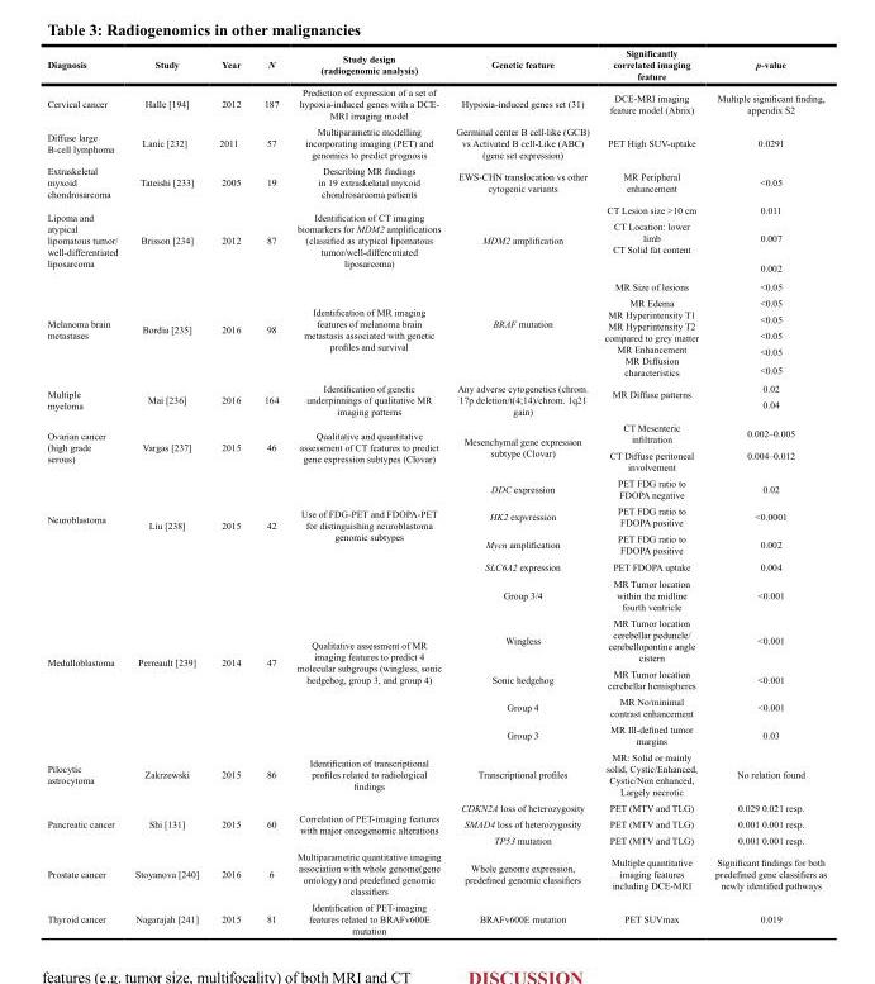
<table><thead><tr><td>Diagnosis</td><td>Study</td><td>Year</td><td>N</td><td>Study design (radiogenomic analysis)</td><td>Genetic feature</td><td>Significantly correlated imaging feature</td><td>p-value</td></tr></thead><tbody><tr><td>Cervical cancer</td><td>Halle [194]</td><td>2012</td><td>187</td><td>Prediction of expression of a set of hypoxia-induced genes with a DCE- MRI imaging model</td><td>Hypoxia-induced genes set (31)</td><td>DCE-MRI imaging feature model (Abrix)</td><td>Multiple significant finding, appendix S2</td></tr><tr><td>Diffuse large B-cell lymphoma</td><td>Lanic [232]</td><td>2011</td><td>57</td><td>Multiparametric modelling incorporating imaging (PET) and genomics to predict prognosis</td><td>Germinal center B cell-like (GCB) vs Activated B cell-Like (ABC) (gene set expression)</td><td>PET High SUV-uptake</td><td>0.0291</td></tr><tr><td>Extraskeletal myxoid chondrosarcoma</td><td>Tateishi [233]</td><td>2005</td><td>19</td><td>Describing MR findings in 19 extraskelatal myxoid chondrosarcoma patients</td><td>EWS-CHN translocation vs other cytogenic variants</td><td>MR Peripheral enhancement</td><td>&lt;0.05</td></tr><tr><td rowspan="3">Lipoma and atypical lipomatous tumor/ well-differentiated liposarcoma</td><td rowspan="3">Brisson [234]</td><td rowspan="3">2012</td><td rowspan="3">87</td><td rowspan="3">Identification of CT imaging biomarkers for MDM2 amplifications (classified as atypical lipomatous tumor/well-differentiated liposarcoma)</td><td rowspan="3">MDM2 amplification</td><td>CT Lesion size &gt;10 cm</td><td>0.011</td></tr><tr><td>CT Location: lower limb CT Solid fat content</td><td>0.007</td></tr><tr><td></td><td>0.002</td></tr><tr><td rowspan="6">Melanoma brain metastases</td><td rowspan="6">Bordia [235]</td><td rowspan="6">2016</td><td rowspan="6">98</td><td rowspan="6">Identification of MR imaging features of melanoma brain metastasis associated with genetic profiles and survival</td><td rowspan="6">BRAF mutation</td><td>MR Size of lesions</td><td>&lt;0.05</td></tr><tr><td rowspan="5">MR Edema MR Hyperintensity T1 MR Hyperintensity T2 compared to grey matter MR Enhancement MR Diffusion characteristics</td><td>&lt;0.05</td></tr><tr><td>&lt;0.05</td></tr><tr><td>&lt;0.05</td></tr><tr><td>&lt;0.05</td></tr><tr><td>&lt;0.05</td></tr><tr><td rowspan="2">Multiple myeloma</td><td rowspan="2">Mai [236]</td><td rowspan="2">2016</td><td rowspan="2">164</td><td rowspan="2">Identification of genetic underpinnings of qualitative MR imaging patterns</td><td rowspan="2">Any adverse cytogenetics (chrom. 17p deletion/t(4;14)/chrom. 1q21 gain)</td><td rowspan="2">MR Diffuse patterns</td><td>0.02</td></tr><tr><td>0.04</td></tr><tr><td rowspan="2">Ovarian cancer (high grade serous)</td><td rowspan="2">Vargas [237]</td><td rowspan="2">2015</td><td rowspan="2">46</td><td rowspan="2">Qualitative and quantitative assessment of CT features to predict gene expression subtypes (Clovar)</td><td rowspan="2">Mesenchymal gene expression subtype (Clovar)</td><td>CT Mesenteric infiltration</td><td>0.002–0.005</td></tr><tr><td>CT Diffuse peritoneal involvement</td><td>0.004–0.012</td></tr><tr><td rowspan="4">Neuroblastoma</td><td rowspan="4">Liu [238]</td><td rowspan="4">2015</td><td rowspan="4">42</td><td rowspan="4">Use of FDG-PET and FDOPA-PET for distinguishing neuroblastoma genomic subtypes</td><td>DDC expression</td><td>PET FDG ratio to FDOPA negative</td><td>0.02</td></tr><tr><td>HK2 expvression</td><td>PET FDG ratio to FDOPA positive</td><td>&lt;0.0001</td></tr><tr><td>Mycn amplification</td><td>PET FDG ratio to FDOPA positive</td><td>0.002</td></tr><tr><td>SLC6A2 expression</td><td>PET FDOPA uptake</td><td>0.004</td></tr><tr><td rowspan="5">Medulloblastoma</td><td rowspan="5">Perreault [239]</td><td rowspan="5">2014</td><td rowspan="5">47</td><td rowspan="5">Qualitative assessment of MR imaging features to predict 4 molecular subgroups (wingless, sonic hedgehog, group 3, and group 4)</td><td>Group 3/4</td><td>MR Tumor location within the midline fourth ventricle</td><td>&lt;0.001</td></tr><tr><td>Wingless</td><td>MR Tumor location cerebellar peduncle/ cerebellopontine angle cistern</td><td>&lt;0.001</td></tr><tr><td>Sonic hedgehog</td><td>MR Tumor location cerebellar hemispheres</td><td>&lt;0.001</td></tr><tr><td>Group 4</td><td>MR No/minimal contrast enhancement</td><td>&lt;0.001</td></tr><tr><td>Group 3</td><td>MR Ill-defined tumor margins</td><td>0.03</td></tr><tr><td>Pilocytic astrocytoma</td><td>Zakrzewski</td><td>2015</td><td>86</td><td>Identification of transcriptional profiles related to radiological findings</td><td>Transcriptional profiles</td><td>MR: Solid or mainly solid, Cystic/Enhanced, Cystic/Non enhanced, Largely necrotic</td><td>No relation found</td></tr><tr><td rowspan="3">Pancreatic cancer</td><td rowspan="3">Shi [131]</td><td rowspan="3">2015</td><td rowspan="3">60</td><td rowspan="3">Correlation of PET-imaging features with major oncogenomic alterations</td><td>CDKN2A loss of heterozygosity</td><td>PET (MTV and TLG)</td><td>0.029 0.021 resp.</td></tr><tr><td>SMAD4 loss of heterozygosity</td><td>PET (MTV and TLG)</td><td>0.001 0.001 resp.</td></tr><tr><td>TP53 mutation</td><td>PET (MTV and TLG)</td><td>0.001 0.001 resp.</td></tr><tr><td>Prostate cancer</td><td>Stoyanova [240]</td><td>2016</td><td>6</td><td>Multiparametric quantitative imaging association with whole genome(gene ontology) and predefined genomic classifiers</td><td>Whole genome expression, predefined genomic classifiers</td><td>Multiple quantitative imaging features including DCE-MRI</td><td>Significant findings for both predefined gene classifiers as newly identified pathways</td></tr><tr><td>Thyroid cancer</td><td>Nagarajah [241]</td><td>2015</td><td>81</td><td>Identification of PET-imaging features related to BRAFv600E mutation</td><td>BRAFv600E mutation</td><td>PET SUVmax</td><td>0.019</td></tr></tbody></table>